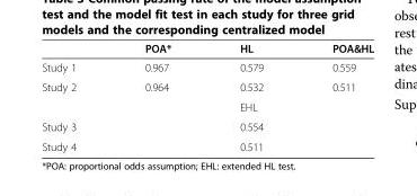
<table><thead><tr><td></td><td>POA*</td><td>HL</td><td>POA&amp;HL</td></tr></thead><tbody><tr><td>Study 1</td><td>0.967</td><td>0.579</td><td>0.559</td></tr><tr><td rowspan="2">Study 2</td><td>0.964</td><td>0.532</td><td>0.511</td></tr><tr><td></td><td>EHL</td><td></td></tr><tr><td>Study 3</td><td></td><td>0.554</td><td></td></tr><tr><td>Study 4</td><td></td><td>0.511</td><td></td></tr></tbody></table>